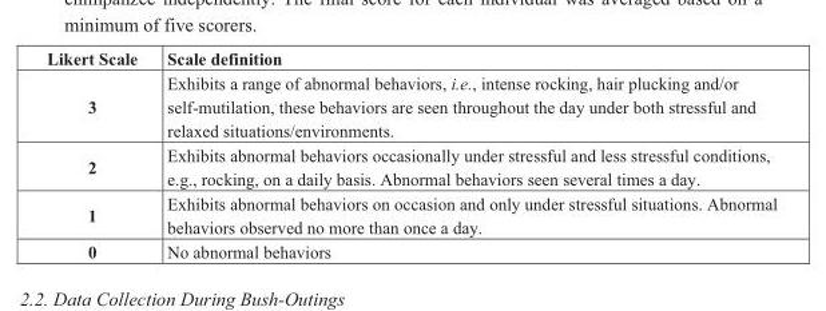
<table><thead><tr><td>Likert Scale</td><td>Scale definition</td></tr></thead><tbody><tr><td>3</td><td>Exhibits a range of abnormal behaviors, i.e., intense rocking, hair plucking and/or self-mutilation, these behaviors are seen throughout the day under both stressful and relaxed situations/environments.</td></tr><tr><td>2</td><td>Exhibits abnormal behaviors occasionally under stressful and less stressful conditions, e.g., rocking, on a daily basis. Abnormal behaviors seen several times a day.</td></tr><tr><td>1</td><td>Exhibits abnormal behaviors on occasion and only under stressful situations. Abnormal behaviors observed no more than once a day.</td></tr><tr><td>0</td><td>No abnormal behaviors</td></tr></tbody></table>